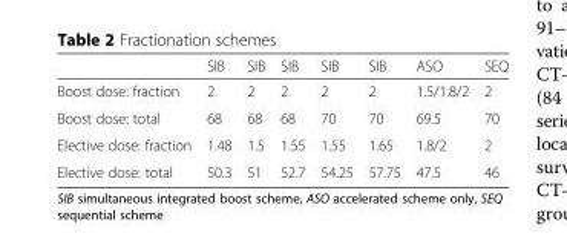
<table><thead><tr><td></td><td>SIB</td><td>SIB</td><td>SIB</td><td>SIB</td><td>SIB</td><td>ASO</td><td>SEQ</td></tr></thead><tbody><tr><td>Boost dose: fraction</td><td>2</td><td>2</td><td>2</td><td>2</td><td>2</td><td>1.5/1.8/2</td><td>2</td></tr><tr><td>Boost dose: total</td><td>68</td><td>68</td><td>68</td><td>70</td><td>70</td><td>69.5</td><td>70</td></tr><tr><td>Elective dose: fraction</td><td>1.48</td><td>1.5</td><td>1.55</td><td>1.55</td><td>1.65</td><td>1.8/2</td><td>2</td></tr><tr><td>Elective dose: total</td><td>50.3</td><td>51</td><td>52.7</td><td>54.25</td><td>57.75</td><td>47.5</td><td>46</td></tr></tbody></table>